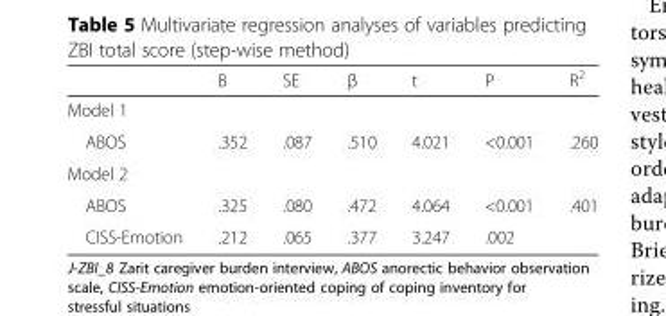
<table><thead><tr><td></td><td>B</td><td>SE</td><td>β</td><td>t</td><td>P</td><td>R<sup>2</sup></td></tr></thead><tbody><tr><td colspan="7">Model 1</td></tr><tr><td>ABOS</td><td>.352</td><td>.087</td><td>.510</td><td>4.021</td><td>&lt;0.001</td><td>.260</td></tr><tr><td colspan="7">Model 2</td></tr><tr><td>ABOS</td><td>.325</td><td>.080</td><td>.472</td><td>4.064</td><td>&lt;0.001</td><td>.401</td></tr><tr><td>CISS-Emotion</td><td>.212</td><td>.065</td><td>.377</td><td>3.247</td><td>.002</td><td></td></tr></tbody></table>